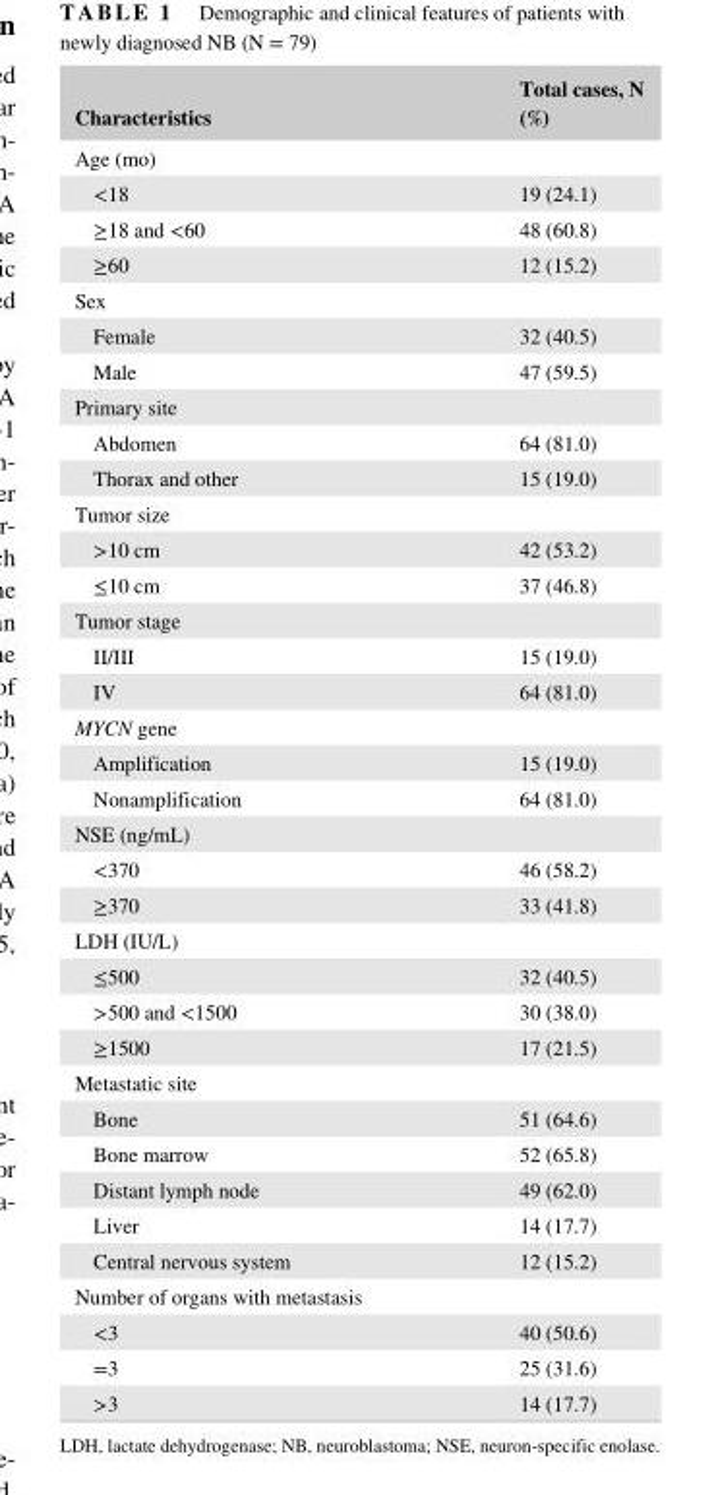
<table><thead><tr><td>Characteristics</td><td>Total cases, N (%)</td></tr></thead><tbody><tr><td colspan="2">Age (mo)</td></tr><tr><td>&lt;18</td><td>19 (24.1)</td></tr><tr><td>≥18 and &lt;60</td><td>48 (60.8)</td></tr><tr><td>≥60</td><td>12 (15.2)</td></tr><tr><td colspan="2">Sex</td></tr><tr><td>Female</td><td>32 (40.5)</td></tr><tr><td>Male</td><td>47 (59.5)</td></tr><tr><td colspan="2">Primary site</td></tr><tr><td>Abdomen</td><td>64 (81.0)</td></tr><tr><td>Thorax and other</td><td>15 (19.0)</td></tr><tr><td colspan="2">Tumor size</td></tr><tr><td>&gt;10 cm</td><td>42 (53.2)</td></tr><tr><td>≤10 cm</td><td>37 (46.8)</td></tr><tr><td colspan="2">Tumor stage</td></tr><tr><td>II/III</td><td>15 (19.0)</td></tr><tr><td>IV</td><td>64 (81.0)</td></tr><tr><td colspan="2">MYCN gene</td></tr><tr><td>Amplification</td><td>15 (19.0)</td></tr><tr><td>Nonamplification</td><td>64 (81.0)</td></tr><tr><td colspan="2">NSE (ng/mL)</td></tr><tr><td>&lt;370</td><td>46 (58.2)</td></tr><tr><td>≥370</td><td>33 (41.8)</td></tr><tr><td colspan="2">LDH (IU/L)</td></tr><tr><td>≤500</td><td>32 (40.5)</td></tr><tr><td>&gt;500 and &lt;1500</td><td>30 (38.0)</td></tr><tr><td>≥1500</td><td>17 (21.5)</td></tr><tr><td colspan="2">Metastatic site</td></tr><tr><td>Bone</td><td>51 (64.6)</td></tr><tr><td>Bone marrow</td><td>52 (65.8)</td></tr><tr><td>Distant lymph node</td><td>49 (62.0)</td></tr><tr><td>Liver</td><td>14 (17.7)</td></tr><tr><td>Central nervous system</td><td>12 (15.2)</td></tr><tr><td colspan="2">Number of organs with metastasis</td></tr><tr><td>&lt;3</td><td>40 (50.6)</td></tr><tr><td>=3</td><td>25 (31.6)</td></tr><tr><td>&gt;3</td><td>14 (17.7)</td></tr></tbody></table>